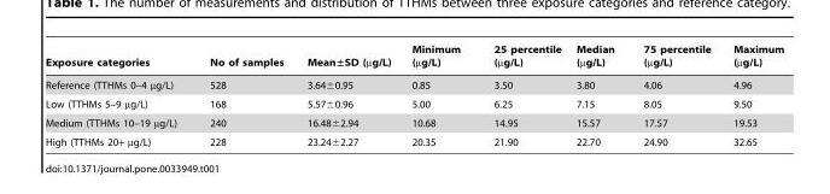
<table><thead><tr><td>Exposure categories</td><td>No of samples</td><td>Mean±SD (µg/L)</td><td>Minimum (µg/L)</td><td>25 percentile (µg/L)</td><td>Median (µg/L)</td><td>75 percentile (µg/L)</td><td>Maximum (µg/L)</td></tr></thead><tbody><tr><td>Reference (TTHMs 0–4 µg/L)</td><td>528</td><td>3.64±0.95</td><td>0.85</td><td>3.50</td><td>3.80</td><td>4.06</td><td>4.96</td></tr><tr><td>Low (TTHMs 5–9 µg/L)</td><td>168</td><td>5.57±0.96</td><td>5.00</td><td>6.25</td><td>7.15</td><td>8.05</td><td>9.50</td></tr><tr><td>Medium (TTHMs 10–19 µg/L)</td><td>240</td><td>16.48±2.94</td><td>10.68</td><td>14.95</td><td>15.57</td><td>17.57</td><td>19.53</td></tr><tr><td>High (TTHMs 20+ µg/L)</td><td>228</td><td>23.24±2.27</td><td>20.35</td><td>21.90</td><td>22.70</td><td>24.90</td><td>32.65</td></tr></tbody></table>